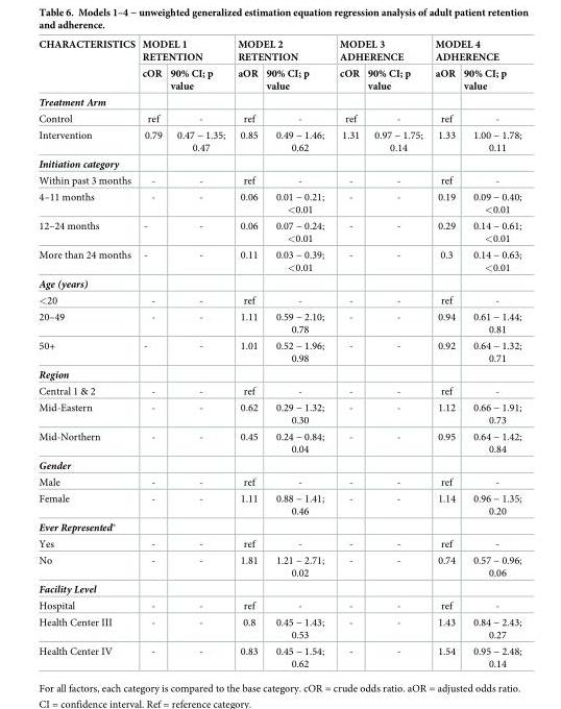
<table><thead><tr><td rowspan="2">CHARACTERISTICS</td><td colspan="2">MODEL 1 RETENTION</td><td colspan="2">MODEL 2 RETENTION</td><td colspan="2">MODEL 3 ADHERENCE</td><td colspan="2">MODEL 4 ADHERENCE</td></tr><tr><td>cOR</td><td>90% CI; p value</td><td>aOR</td><td>90% CI; p value</td><td>cOR</td><td>90% CI; p value</td><td>aOR</td><td>90% CI; p value</td></tr></thead><tbody><tr><td colspan="9">Treatment Arm</td></tr><tr><td>Control</td><td>ref</td><td>-</td><td>ref</td><td>-</td><td>ref</td><td>-</td><td>ref</td><td>-</td></tr><tr><td>Intervention</td><td>0.79</td><td>0.47 − 1.35; 0.47</td><td>0.85</td><td>0.49 − 1.46; 0.62</td><td>1.31</td><td>0.97 − 1.75; 0.14</td><td>1.33</td><td>1.00 − 1.78; 0.11</td></tr><tr><td colspan="9">Initiation category</td></tr><tr><td>Within past 3 months</td><td>-</td><td>-</td><td>ref</td><td>-</td><td>-</td><td>-</td><td>ref</td><td>-</td></tr><tr><td>4–11 months</td><td>-</td><td>-</td><td>0.06</td><td>0.01 − 0.21; &lt;0.01</td><td>-</td><td>-</td><td>0.19</td><td>0.09 − 0.40; &lt;0.01</td></tr><tr><td>12–24 months</td><td>-</td><td>-</td><td>0.06</td><td>0.07 − 0.24; &lt;0.01</td><td>-</td><td>-</td><td>0.29</td><td>0.14 − 0.61; &lt;0.01</td></tr><tr><td>More than 24 months</td><td>-</td><td>-</td><td>0.11</td><td>0.03 − 0.39; &lt;0.01</td><td>-</td><td>-</td><td>0.3</td><td>0.14 − 0.63; &lt;0.01</td></tr><tr><td colspan="9">Age (years)</td></tr><tr><td>&lt;20</td><td>-</td><td>-</td><td>ref</td><td>-</td><td>-</td><td>-</td><td>ref</td><td>-</td></tr><tr><td>20–49</td><td>-</td><td>-</td><td>1.11</td><td>0.59 − 2.10; 0.78</td><td>-</td><td>-</td><td>0.94</td><td>0.61 − 1.44; 0.81</td></tr><tr><td>50+</td><td>-</td><td>-</td><td>1.01</td><td>0.52 − 1.96; 0.98</td><td>-</td><td>-</td><td>0.92</td><td>0.64 − 1.32; 0.71</td></tr><tr><td colspan="9">Region</td></tr><tr><td>Central 1 &amp; 2</td><td>-</td><td>-</td><td>ref</td><td>-</td><td>-</td><td>-</td><td>ref</td><td>-</td></tr><tr><td>Mid-Eastern</td><td>-</td><td>-</td><td>0.62</td><td>0.29 − 1.32; 0.30</td><td>-</td><td>-</td><td>1.12</td><td>0.66 − 1.91; 0.73</td></tr><tr><td>Mid-Northern</td><td>-</td><td>-</td><td>0.45</td><td>0.24 − 0.84; 0.04</td><td>-</td><td>-</td><td>0.95</td><td>0.64 − 1.42; 0.84</td></tr><tr><td colspan="9">Gender</td></tr><tr><td>Male</td><td>-</td><td>-</td><td>ref</td><td>-</td><td>-</td><td>-</td><td>ref</td><td>-</td></tr><tr><td>Female</td><td>-</td><td>-</td><td>1.11</td><td>0.88 − 1.41; 0.46</td><td>-</td><td>-</td><td>1.14</td><td>0.96 − 1.35; 0.20</td></tr><tr><td colspan="9">Ever Represented*</td></tr><tr><td>Yes</td><td>-</td><td>-</td><td>ref</td><td>-</td><td>-</td><td>-</td><td>ref</td><td>-</td></tr><tr><td>No</td><td>-</td><td>-</td><td>1.81</td><td>1.21 − 2.71; 0.02</td><td>-</td><td>-</td><td>0.74</td><td>0.57 − 0.96; 0.06</td></tr><tr><td colspan="9">Facility Level</td></tr><tr><td>Hospital</td><td>-</td><td>-</td><td>ref</td><td>-</td><td>-</td><td>-</td><td>ref</td><td>-</td></tr><tr><td>Health Center III</td><td>-</td><td>-</td><td>0.8</td><td>0.45 − 1.43; 0.53</td><td>-</td><td>-</td><td>1.43</td><td>0.84 − 2.43; 0.27</td></tr><tr><td>Health Center IV</td><td>-</td><td>-</td><td>0.83</td><td>0.45 − 1.54; 0.62</td><td>-</td><td>-</td><td>1.54</td><td>0.95 − 2.48; 0.14</td></tr></tbody></table>